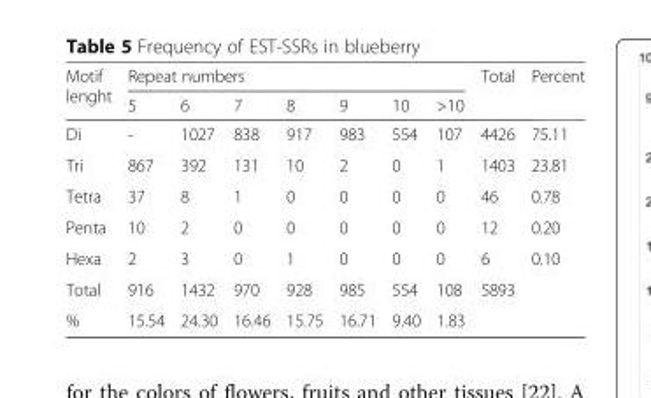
<table><thead><tr><td rowspan="2">Motif lenght</td><td colspan="7">Repeat numbers</td><td rowspan="2">Total</td><td rowspan="2">Percent</td></tr><tr><td>5</td><td>6</td><td>7</td><td>8</td><td>9</td><td>10</td><td>&gt;10</td></tr></thead><tbody><tr><td>Di</td><td>-</td><td>1027</td><td>838</td><td>917</td><td>983</td><td>554</td><td>107</td><td>4426</td><td>75.11</td></tr><tr><td>Tri</td><td>867</td><td>392</td><td>131</td><td>10</td><td>2</td><td>0</td><td>1</td><td>1403</td><td>23.81</td></tr><tr><td>Tetra</td><td>37</td><td>8</td><td>1</td><td>0</td><td>0</td><td>0</td><td>0</td><td>46</td><td>0.78</td></tr><tr><td>Penta</td><td>10</td><td>2</td><td>0</td><td>0</td><td>0</td><td>0</td><td>0</td><td>12</td><td>0.20</td></tr><tr><td>Hexa</td><td>2</td><td>3</td><td>0</td><td>1</td><td>0</td><td>0</td><td>0</td><td>6</td><td>0.10</td></tr><tr><td>Total</td><td>916</td><td>1432</td><td>970</td><td>928</td><td>985</td><td>554</td><td>108</td><td>5893</td><td></td></tr><tr><td>%</td><td>15.54</td><td>24.30</td><td>16.46</td><td>15.75</td><td>16.71</td><td>9.40</td><td>1.83</td><td></td><td></td></tr></tbody></table>